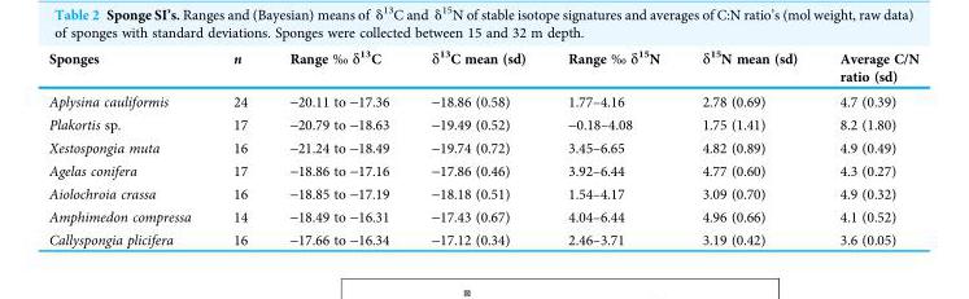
<table><thead><tr><td>Sponges</td><td>n</td><td>Range ‰ δ<sup>13</sup>C</td><td>δ<sup>13</sup>C mean (sd)</td><td>Range ‰ δ<sup>15</sup>N</td><td>δ<sup>15</sup>N mean (sd)</td><td>Average C/N ratio (sd)</td></tr></thead><tbody><tr><td>Aplysina cauliformis</td><td>24</td><td>-20.11 to -17.36</td><td>-18.86 (0.58)</td><td>1.77–4.16</td><td>2.78 (0.69)</td><td>4.7 (0.39)</td></tr><tr><td>Plakortis sp.</td><td>17</td><td>-20.79 to -18.63</td><td>-19.49 (0.52)</td><td>-0.18–4.08</td><td>1.75 (1.41)</td><td>8.2 (1.80)</td></tr><tr><td>Xestospongia muta</td><td>16</td><td>-21.24 to -18.49</td><td>-19.74 (0.72)</td><td>3.45–6.65</td><td>4.82 (0.89)</td><td>4.9 (0.49)</td></tr><tr><td>Agelas conifera</td><td>17</td><td>-18.86 to -17.16</td><td>-17.86 (0.46)</td><td>3.92–6.44</td><td>4.77 (0.60)</td><td>4.3 (0.27)</td></tr><tr><td>Aiolochroia crassa</td><td>16</td><td>-18.85 to -17.19</td><td>-18.18 (0.51)</td><td>1.54–4.17</td><td>3.09 (0.70)</td><td>4.9 (0.32)</td></tr><tr><td>Amphimedon compressa</td><td>14</td><td>-18.49 to -16.31</td><td>-17.43 (0.67)</td><td>4.04–6.44</td><td>4.96 (0.66)</td><td>4.1 (0.52)</td></tr><tr><td>Callyspongia plicifera</td><td>16</td><td>-17.66 to -16.34</td><td>-17.12 (0.34)</td><td>2.46–3.71</td><td>3.19 (0.42)</td><td>3.6 (0.05)</td></tr></tbody></table>